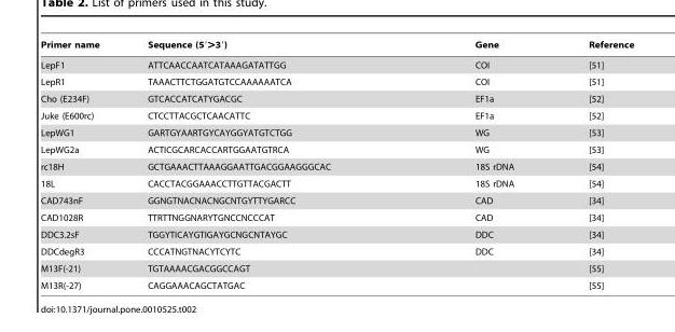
<table><thead><tr><td>Primer name</td><td>Sequence (59. .39)</td><td>Gene</td><td>Reference</td></tr></thead><tbody><tr><td>LepF1</td><td>ATTCAACCAATCATAAAGATATTGG</td><td>COI</td><td>[51]</td></tr><tr><td>LepR1</td><td>TAAACTTCTGGATGTCCAAAAAATCA</td><td>COI</td><td>[51]</td></tr><tr><td>Cho (E234F)</td><td>GTCACCATCATYGACGC</td><td>EF1a</td><td>[52]</td></tr><tr><td>Juke (E600rc)</td><td>CTCCTTACGCTCAACATTC</td><td>EF1a</td><td>[52]</td></tr><tr><td>LepWG1</td><td>GARTGYAARTGYCAYGGYATGTCTGG</td><td>WG</td><td>[53]</td></tr><tr><td>LepWG2a</td><td>ACTICGCARCACCARTGGAATGTRCA</td><td>WG</td><td>[53]</td></tr><tr><td>rc18H</td><td>GCTGAAACTTAAAGGAATTGACGGAAGGGCAC</td><td>18S rDNA</td><td>[54]</td></tr><tr><td>18L</td><td>CACCTACGGAAACCTTGTTACGACTT</td><td>18S rDNA</td><td>[54]</td></tr><tr><td>CAD743nF</td><td>GGNGTNACNACNGCNTGYTTYGARCC</td><td>CAD</td><td>[34]</td></tr><tr><td>CAD1028R</td><td>TTRTTNGGNARYTGNCCNCCCAT</td><td>CAD</td><td>[34]</td></tr><tr><td>DDC3.2sF</td><td>TGGYTICAYGTIGAYGCNGCNTAYGC</td><td>DDC</td><td>[34]</td></tr><tr><td>DDCdegR3</td><td>CCCATNGTNACYTCYTC</td><td>DDC</td><td>[34]</td></tr><tr><td>M13F(-21)</td><td>TGTAAAACGACGGCCAGT</td><td></td><td>[55]</td></tr><tr><td>M13R(-27)</td><td>CAGGAAACAGCTATGAC</td><td></td><td>[55]</td></tr></tbody></table>